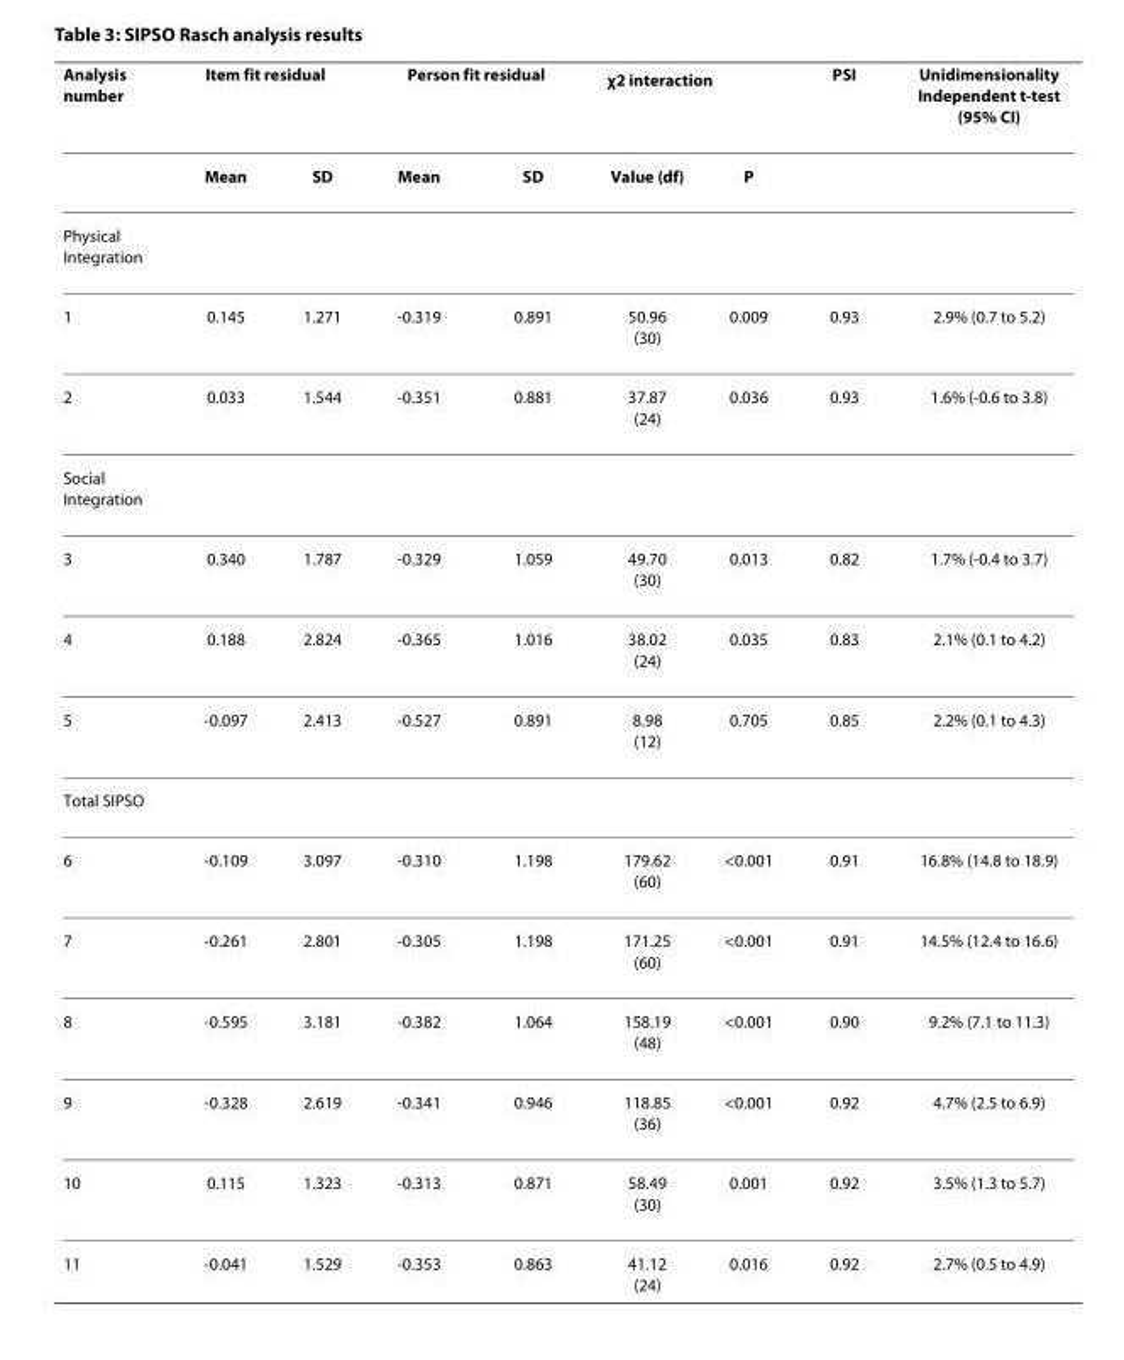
<table><thead><tr><td rowspan="2">Analysis number</td><td colspan="2">Item fit residual</td><td colspan="2">Person fit residual</td><td colspan="2">χ<sup>2</sup> interaction</td><td rowspan="2">PSI</td><td rowspan="2">Unidimensionality Independent t-test (95% CI)</td></tr><tr><td>Mean</td><td>SD</td><td>Mean</td><td>SD</td><td>Value (df)</td><td>P</td></tr></thead><tbody><tr><td colspan="9">Physical Integration</td></tr><tr><td>1</td><td>0.145</td><td>1.271</td><td>-0.319</td><td>0.891</td><td>50.96 (30)</td><td>0.009</td><td>0.93</td><td>2.9% (0.7 to 5.2)</td></tr><tr><td>2</td><td>0.033</td><td>1.544</td><td>-0.351</td><td>0.881</td><td>37.87 (24)</td><td>0.036</td><td>0.93</td><td>1.6% (-0.6 to 3.8)</td></tr><tr><td colspan="9">Social Integration</td></tr><tr><td>3</td><td>0.340</td><td>1.787</td><td>-0.329</td><td>1.059</td><td>49.70 (30)</td><td>0.013</td><td>0.82</td><td>1.7% (-0.4 to 3.7)</td></tr><tr><td>4</td><td>0.188</td><td>2.824</td><td>-0.365</td><td>1.016</td><td>38.02 (24)</td><td>0.035</td><td>0.83</td><td>2.1% (0.1 to 4.2)</td></tr><tr><td>5</td><td>-0.097</td><td>2.413</td><td>-0.527</td><td>0.891</td><td>8.98 (12)</td><td>0.705</td><td>0.85</td><td>2.2% (0.1 to 4.3)</td></tr><tr><td colspan="9">Total SIPSO</td></tr><tr><td>6</td><td>-0.109</td><td>3.097</td><td>-0.310</td><td>1.198</td><td>179.62 (60)</td><td>&lt;0.001</td><td>0.91</td><td>16.8% (14.8 to 18.9)</td></tr><tr><td>7</td><td>-0.261</td><td>2.801</td><td>-0.305</td><td>1.198</td><td>171.25 (60)</td><td>&lt;0.001</td><td>0.91</td><td>14.5% (12.4 to 16.6)</td></tr><tr><td>8</td><td>-0.595</td><td>3.181</td><td>-0.382</td><td>1.064</td><td>158.19 (48)</td><td>&lt;0.001</td><td>0.90</td><td>9.2% (7.1 to 11.3)</td></tr><tr><td>9</td><td>-0.328</td><td>2.619</td><td>-0.341</td><td>0.946</td><td>118.85 (36)</td><td>&lt;0.001</td><td>0.92</td><td>4.7% (2.5 to 6.9)</td></tr><tr><td>10</td><td>0.115</td><td>1.323</td><td>-0.313</td><td>0.871</td><td>58.49 (30)</td><td>0.001</td><td>0.92</td><td>3.5% (1.3 to 5.7)</td></tr><tr><td>11</td><td>-0.041</td><td>1.529</td><td>-0.353</td><td>0.863</td><td>41.12 (24)</td><td>0.016</td><td>0.92</td><td>2.7% (0.5 to 4.9)</td></tr></tbody></table>